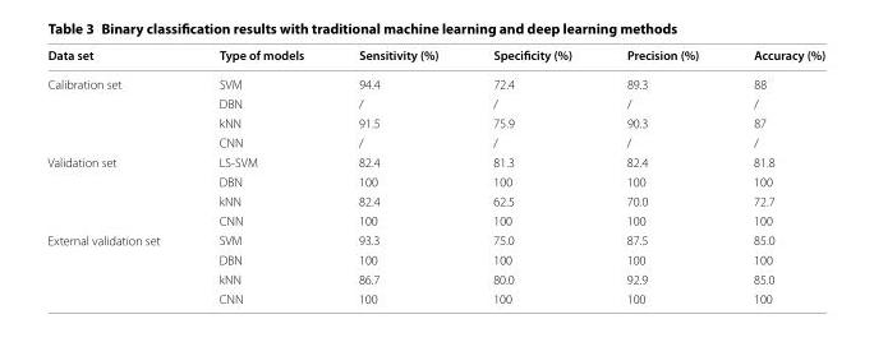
<table><thead><tr><td>Data set</td><td>Type of models</td><td>Sensitivity (%)</td><td>Specificity (%)</td><td>Precision (%)</td><td>Accuracy (%)</td></tr></thead><tbody><tr><td rowspan="4">Calibration set</td><td>SVM</td><td>94.4</td><td>72.4</td><td>89.3</td><td>88</td></tr><tr><td>DBN</td><td>/</td><td>/</td><td>/</td><td>/</td></tr><tr><td>kNN</td><td>91.5</td><td>75.9</td><td>90.3</td><td>87</td></tr><tr><td>CNN</td><td>/</td><td>/</td><td>/</td><td>/</td></tr><tr><td rowspan="4">Validation set</td><td>LS-SVM</td><td>82.4</td><td>81.3</td><td>82.4</td><td>81.8</td></tr><tr><td>DBN</td><td>100</td><td>100</td><td>100</td><td>100</td></tr><tr><td>kNN</td><td>82.4</td><td>62.5</td><td>70.0</td><td>72.7</td></tr><tr><td>CNN</td><td>100</td><td>100</td><td>100</td><td>100</td></tr><tr><td rowspan="4">External validation set</td><td>SVM</td><td>93.3</td><td>75.0</td><td>87.5</td><td>85.0</td></tr><tr><td>DBN</td><td>100</td><td>100</td><td>100</td><td>100</td></tr><tr><td>kNN</td><td>86.7</td><td>80.0</td><td>92.9</td><td>85.0</td></tr><tr><td>CNN</td><td>100</td><td>100</td><td>100</td><td>100</td></tr></tbody></table>